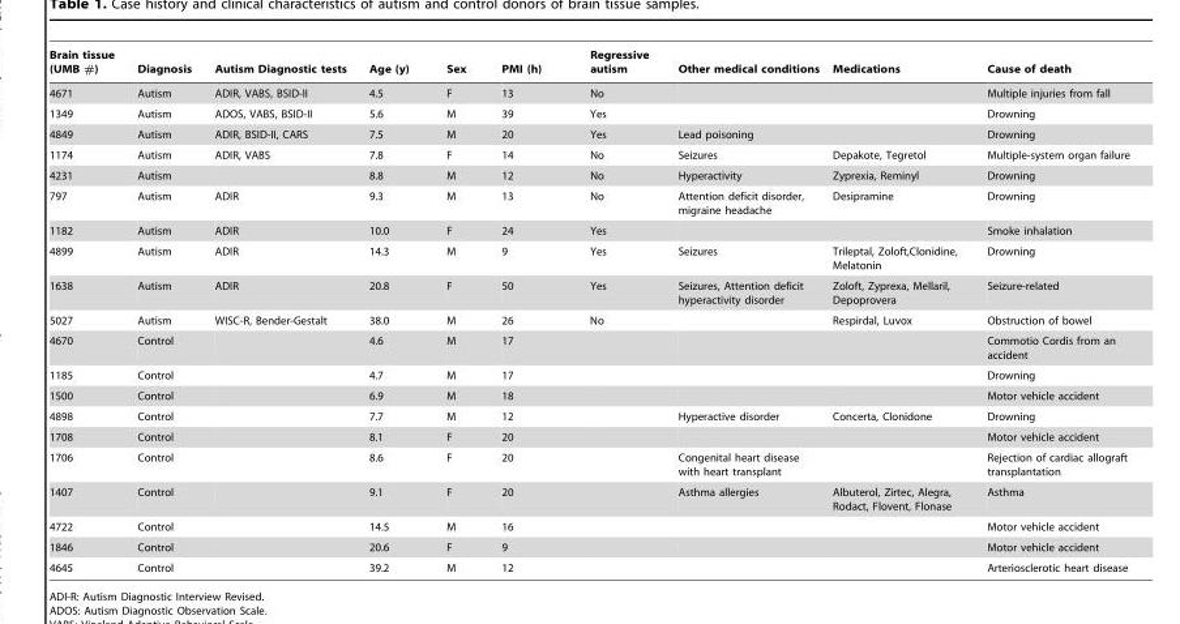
<table><thead><tr><td>Brain tissue (UMB #)</td><td>Diagnosis</td><td>Autism Diagnostic tests</td><td>Age (y)</td><td>Sex</td><td>PMI (h)</td><td>Regressive autism</td><td>Other medical conditions</td><td>Medications</td><td>Cause of death</td></tr></thead><tbody><tr><td>4671</td><td>Autism</td><td>ADIR, VABS, BSID-II</td><td>4.5</td><td>F</td><td>13</td><td>No</td><td></td><td></td><td>Multiple injuries from fall</td></tr><tr><td>1349</td><td>Autism</td><td>ADOS, VABS, BSID-II</td><td>5.6</td><td>M</td><td>39</td><td>Yes</td><td></td><td></td><td>Drowning</td></tr><tr><td>4849</td><td>Autism</td><td>ADIR, BSID-II, CARS</td><td>7.5</td><td>M</td><td>20</td><td>Yes</td><td>Lead poisoning</td><td></td><td>Drowning</td></tr><tr><td>1174</td><td>Autism</td><td>ADIR, VABS</td><td>7.8</td><td>F</td><td>14</td><td>No</td><td>Seizures</td><td>Depakote, Tegretol</td><td>Multiple-system organ failure</td></tr><tr><td>4231</td><td>Autism</td><td></td><td>8.8</td><td>M</td><td>12</td><td>No</td><td>Hyperactivity</td><td>Zyprexia, Reminyl</td><td>Drowning</td></tr><tr><td>797</td><td>Autism</td><td>ADIR</td><td>9.3</td><td>M</td><td>13</td><td>No</td><td>Attention deficit disorder, migraine headache</td><td>Desipramine</td><td>Drowning</td></tr><tr><td>1182</td><td>Autism</td><td>ADIR</td><td>10.0</td><td>F</td><td>24</td><td>Yes</td><td></td><td></td><td>Smoke inhalation</td></tr><tr><td>4899</td><td>Autism</td><td>ADIR</td><td>14.3</td><td>M</td><td>9</td><td>Yes</td><td>Seizures</td><td>Trileptal, Zoloft,Clonidine, Melatonin</td><td>Drowning</td></tr><tr><td>1638</td><td>Autism</td><td>ADIR</td><td>20.8</td><td>F</td><td>50</td><td>Yes</td><td>Seizures, Attention deficit hyperactivity disorder</td><td>Zoloft, Zyprexa, Mellaril, Depoprovera</td><td>Seizure-related</td></tr><tr><td>5027</td><td>Autism</td><td>WISC-R, Bender-Gestalt</td><td>38.0</td><td>M</td><td>26</td><td>No</td><td></td><td>Respirdal, Luvox</td><td>Obstruction of bowel</td></tr><tr><td>4670</td><td>Control</td><td></td><td>4.6</td><td>M</td><td>17</td><td></td><td></td><td></td><td>Commotio Cordis from an accident</td></tr><tr><td>1185</td><td>Control</td><td></td><td>4.7</td><td>M</td><td>17</td><td></td><td></td><td></td><td>Drowning</td></tr><tr><td>1500</td><td>Control</td><td></td><td>6.9</td><td>M</td><td>18</td><td></td><td></td><td></td><td>Motor vehicle accident</td></tr><tr><td>4898</td><td>Control</td><td></td><td>7.7</td><td>M</td><td>12</td><td></td><td>Hyperactive disorder</td><td>Concerta, Clonidone</td><td>Drowning</td></tr><tr><td>1708</td><td>Control</td><td></td><td>8.1</td><td>F</td><td>20</td><td></td><td></td><td></td><td>Motor vehicle accident</td></tr><tr><td>1706</td><td>Control</td><td></td><td>8.6</td><td>F</td><td>20</td><td></td><td>Congenital heart disease with heart transplant</td><td></td><td>Rejection of cardiac allograft transplantation</td></tr><tr><td>1407</td><td>Control</td><td></td><td>9.1</td><td>F</td><td>20</td><td></td><td>Asthma allergies</td><td>Albuterol, Zirtec, Alegra, Rodact, Flovent, Flonase</td><td>Asthma</td></tr><tr><td>4722</td><td>Control</td><td></td><td>14.5</td><td>M</td><td>16</td><td></td><td></td><td></td><td>Motor vehicle accident</td></tr><tr><td>1846</td><td>Control</td><td></td><td>20.6</td><td>F</td><td>9</td><td></td><td></td><td></td><td>Motor vehicle accident</td></tr><tr><td>4645</td><td>Control</td><td></td><td>39.2</td><td>M</td><td>12</td><td></td><td></td><td></td><td>Arteriosclerotic heart disease</td></tr></tbody></table>